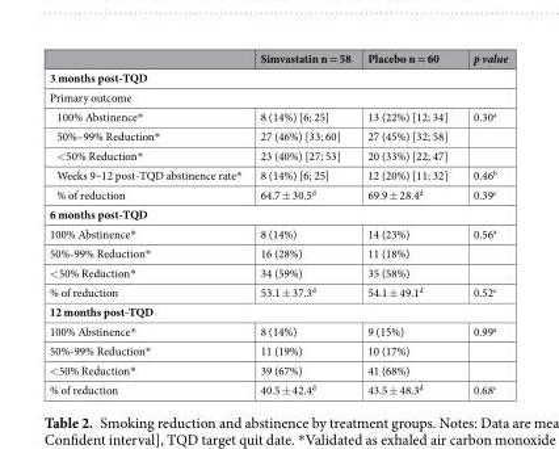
<table><thead><tr><td></td><td>Simvastatin n = 58</td><td>Placebo n = 60</td><td>p value</td></tr></thead><tbody><tr><td colspan="4">3 months post-TQD</td></tr><tr><td colspan="4">Primary outcome</td></tr><tr><td>100% Abstinence*</td><td>8 (14%) [6; 25]</td><td>13 (22%) [12; 34]</td><td>0.30<sup>a</sup></td></tr><tr><td>50%–99% Reduction*</td><td>27 (46%) [33; 60]</td><td>27 (45%) [32; 58]</td><td></td></tr><tr><td>&lt;50% Reduction*</td><td>23 (40%) [27; 53]</td><td>20 (33%) [22; 47]</td><td></td></tr><tr><td>Weeks 9–12 post-TQD abstinence rate*</td><td>8 (14%) [6; 25]</td><td>12 (20%) [11; 32]</td><td>0.46<sup>b</sup></td></tr><tr><td>% of reduction</td><td>64.7 ± 30.5<sup>d</sup></td><td>69.9 ± 28.4<sup>d</sup></td><td>0.39<sup>c</sup></td></tr><tr><td colspan="4">6 months post-TQD</td></tr><tr><td>100% Abstinence*</td><td>8 (14%)</td><td>14 (23%)</td><td>0.56<sup>a</sup></td></tr><tr><td>50%-99% Reduction*</td><td>16 (28%)</td><td>11 (18%)</td><td></td></tr><tr><td>&lt;50% Reduction*</td><td>34 (59%)</td><td>35 (58%)</td><td></td></tr><tr><td>% of reduction</td><td>53.1 ± 37.3<sup>d</sup></td><td>54.1 ± 49.1<sup>d</sup></td><td>0.52<sup>c</sup></td></tr><tr><td colspan="4">12 months post-TQD</td></tr><tr><td>100% Abstinence*</td><td>8 (14%)</td><td>9 (15%)</td><td>0.99<sup>a</sup></td></tr><tr><td>50%-99% Reduction*</td><td>11 (19%)</td><td>10 (17%)</td><td></td></tr><tr><td>&lt;50% Reduction*</td><td>39 (67%)</td><td>41 (68%)</td><td></td></tr><tr><td>% of reduction</td><td>40.5 ± 42.4<sup>d</sup></td><td>43.5 ± 48.3<sup>d</sup></td><td>0.68<sup>c</sup></td></tr></tbody></table>